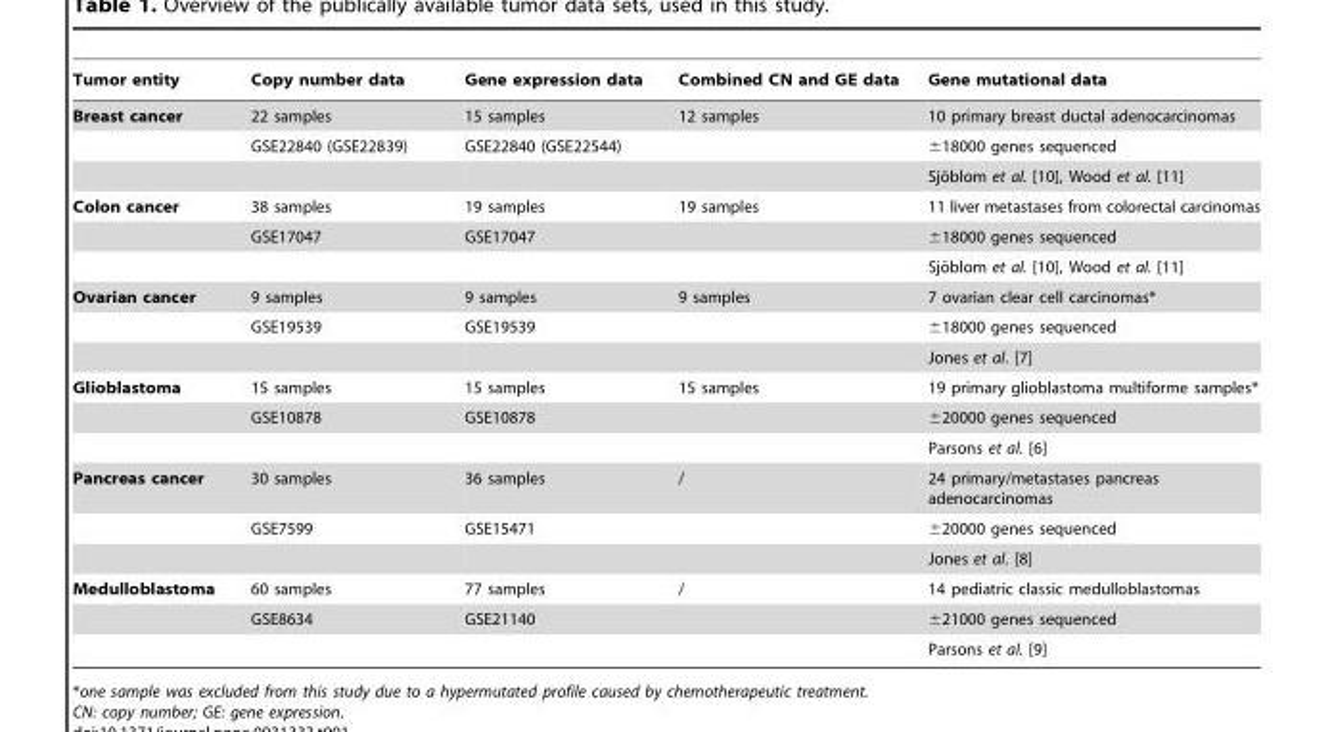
<table><thead><tr><td>Tumor entity</td><td>Copy number data</td><td>Gene expression data</td><td>Combined CN and GE data</td><td>Gene mutational data</td></tr></thead><tbody><tr><td rowspan="3">Breast cancer</td><td>22 samples</td><td>15 samples</td><td>12 samples</td><td>10 primary breast ductal adenocarcinomas</td></tr><tr><td>GSE22840 (GSE22839)</td><td>GSE22840 (GSE22544)</td><td></td><td>±18000 genes sequenced</td></tr><tr><td></td><td></td><td></td><td>Sjo¨blom et al. [10], Wood et al. [11]</td></tr><tr><td rowspan="3">Colon cancer</td><td>38 samples</td><td>19 samples</td><td>19 samples</td><td>11 liver metastases from colorectal carcinomas</td></tr><tr><td>GSE17047</td><td>GSE17047</td><td></td><td>±18000 genes sequenced</td></tr><tr><td></td><td></td><td></td><td>Sjo¨blom et al. [10], Wood et al. [11]</td></tr><tr><td rowspan="3">Ovarian cancer</td><td>9 samples</td><td>9 samples</td><td>9 samples</td><td>7 ovarian clear cell carcinomas*</td></tr><tr><td>GSE19539</td><td>GSE19539</td><td></td><td>±18000 genes sequenced</td></tr><tr><td></td><td></td><td></td><td>Jones et al. [7]</td></tr><tr><td rowspan="3">Glioblastoma</td><td>15 samples</td><td>15 samples</td><td>15 samples</td><td>19 primary glioblastoma multiforme samples*</td></tr><tr><td>GSE10878</td><td>GSE10878</td><td></td><td>±20000 genes sequenced</td></tr><tr><td></td><td></td><td></td><td>Parsons et al. [6]</td></tr><tr><td rowspan="3">Pancreas cancer</td><td>30 samples</td><td>36 samples</td><td>/</td><td>24 primary/metastases pancreas adenocarcinomas</td></tr><tr><td>GSE7599</td><td>GSE15471</td><td></td><td>±20000 genes sequenced</td></tr><tr><td></td><td></td><td></td><td>Jones et al. [8]</td></tr><tr><td rowspan="3">Medulloblastoma</td><td>60 samples</td><td>77 samples</td><td>/</td><td>14 pediatric classic medulloblastomas</td></tr><tr><td>GSE8634</td><td>GSE21140</td><td></td><td>±21000 genes sequenced</td></tr><tr><td></td><td></td><td></td><td>Parsons et al. [9]</td></tr></tbody></table>